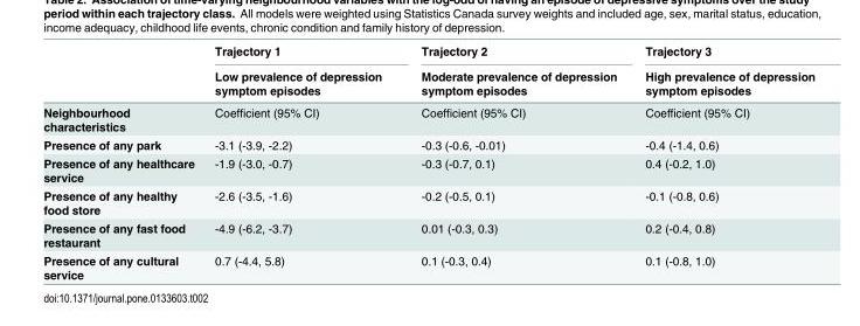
<table><thead><tr><td rowspan="2"></td><td rowspan="2">Trajectory 1 Low prevalence of depression symptom episodes</td><td rowspan="2">Trajectory 2 Moderate prevalence of depression symptom episodes</td><td rowspan="2">Trajectory 3 High prevalence of depression symptom episodes</td></tr><tr></tr></thead><tbody><tr><td>Neighbourhood characteristics</td><td>Coefficient (95% CI)</td><td>Coefficient (95% CI)</td><td>Coefficient (95% CI)</td></tr><tr><td>Presence of any park</td><td>-3.1 (-3.9, -2.2)</td><td>-0.3 (-0.6, -0.01)</td><td>-0.4 (-1.4, 0.6)</td></tr><tr><td>Presence of any healthcare service</td><td>-1.9 (-3.0, -0.7)</td><td>-0.3 (-0.7, 0.1)</td><td>0.4 (-0.2, 1.0)</td></tr><tr><td>Presence of any healthy food store</td><td>-2.6 (-3.5, -1.6)</td><td>-0.2 (-0.5, 0.1)</td><td>-0.1 (-0.8, 0.6)</td></tr><tr><td>Presence of any fast food restaurant</td><td>-4.9 (-6.2, -3.7)</td><td>0.01 (-0.3, 0.3)</td><td>0.2 (-0.4, 0.8)</td></tr><tr><td>Presence of any cultural service</td><td>0.7 (-4.4, 5.8)</td><td>0.1 (-0.3, 0.4)</td><td>0.1 (-0.8, 1.0)</td></tr></tbody></table>